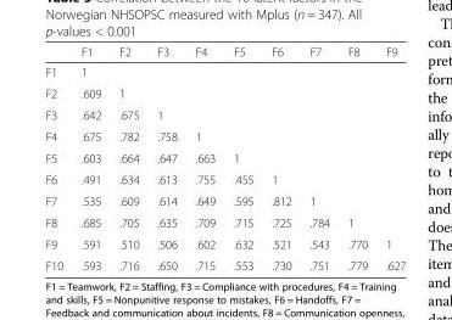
<table><thead><tr><td></td><td>F1</td><td>F2</td><td>F3</td><td>F4</td><td>F5</td><td>F6</td><td>F7</td><td>F8</td><td>F9</td></tr></thead><tbody><tr><td>F1</td><td>1</td><td></td><td></td><td></td><td></td><td></td><td></td><td></td><td></td></tr><tr><td>F2</td><td>.609</td><td>1</td><td></td><td></td><td></td><td></td><td></td><td></td><td></td></tr><tr><td>F3</td><td>.642</td><td>.675</td><td>1</td><td></td><td></td><td></td><td></td><td></td><td></td></tr><tr><td>F4</td><td>.675</td><td>.782</td><td>.758</td><td>1</td><td></td><td></td><td></td><td></td><td></td></tr><tr><td>F5</td><td>.603</td><td>.664</td><td>.647</td><td>.663</td><td>1</td><td></td><td></td><td></td><td></td></tr><tr><td>F6</td><td>.491</td><td>.634</td><td>.613</td><td>.755</td><td>.455</td><td>1</td><td></td><td></td><td></td></tr><tr><td>F7</td><td>.535</td><td>.609</td><td>.614</td><td>.649</td><td>.595</td><td>.812</td><td>1</td><td></td><td></td></tr><tr><td>F8</td><td>.685</td><td>.705</td><td>.635</td><td>.709</td><td>.715</td><td>.725</td><td>.784</td><td>1</td><td></td></tr><tr><td>F9</td><td>.591</td><td>.510</td><td>.506</td><td>.602</td><td>.632</td><td>.521</td><td>.543</td><td>.770</td><td>1</td></tr><tr><td>F10</td><td>.593</td><td>.716</td><td>.650</td><td>.715</td><td>.553</td><td>.730</td><td>.751</td><td>.779</td><td>.627</td></tr></tbody></table>